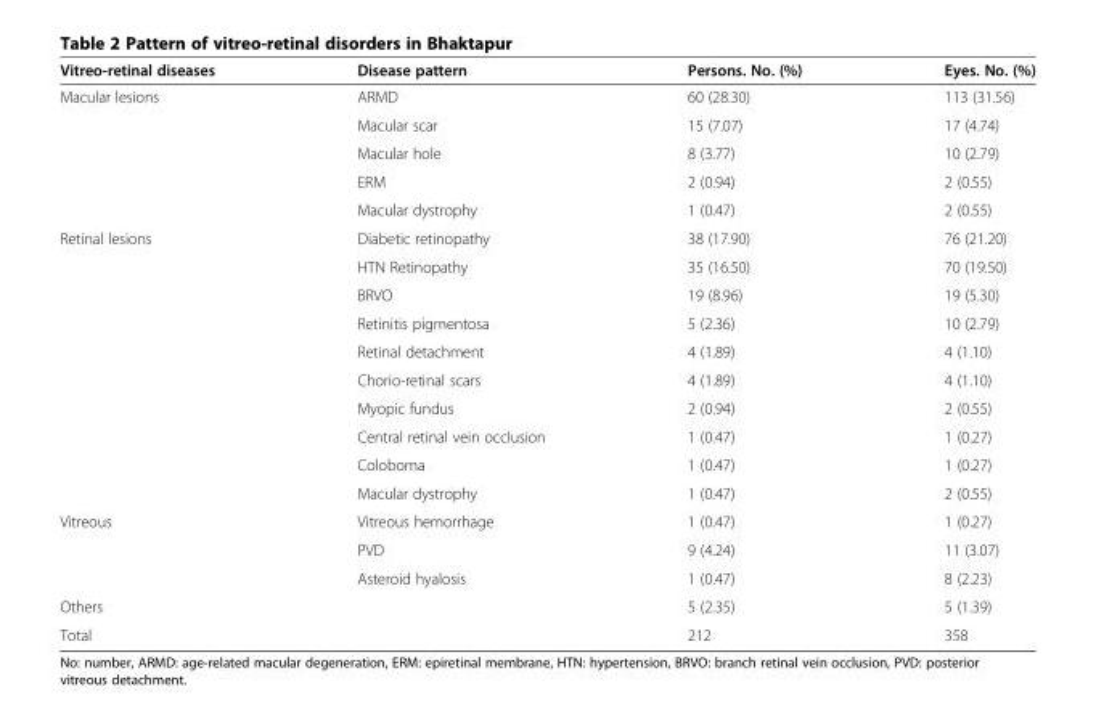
<table><thead><tr><td>Vitreo-retinal diseases</td><td>Disease pattern</td><td>Persons. No. (%)</td><td>Eyes. No. (%)</td></tr></thead><tbody><tr><td rowspan="5">Macular lesions</td><td>ARMD</td><td>60 (28.30)</td><td>113 (31.56)</td></tr><tr><td>Macular scar</td><td>15 (7.07)</td><td>17 (4.74)</td></tr><tr><td>Macular hole</td><td>8 (3.77)</td><td>10 (2.79)</td></tr><tr><td>ERM</td><td>2 (0.94)</td><td>2 (0.55)</td></tr><tr><td>Macular dystrophy</td><td>1 (0.47)</td><td>2 (0.55)</td></tr><tr><td rowspan="10">Retinal lesions</td><td>Diabetic retinopathy</td><td>38 (17.90)</td><td>76 (21.20)</td></tr><tr><td>HTN Retinopathy</td><td>35 (16.50)</td><td>70 (19.50)</td></tr><tr><td>BRVO</td><td>19 (8.96)</td><td>19 (5.30)</td></tr><tr><td>Retinitis pigmentosa</td><td>5 (2.36)</td><td>10 (2.79)</td></tr><tr><td>Retinal detachment</td><td>4 (1.89)</td><td>4 (1.10)</td></tr><tr><td>Chorio-retinal scars</td><td>4 (1.89)</td><td>4 (1.10)</td></tr><tr><td>Myopic fundus</td><td>2 (0.94)</td><td>2 (0.55)</td></tr><tr><td>Central retinal vein occlusion</td><td>1 (0.47)</td><td>1 (0.27)</td></tr><tr><td>Coloboma</td><td>1 (0.47)</td><td>1 (0.27)</td></tr><tr><td>Macular dystrophy</td><td>1 (0.47)</td><td>2 (0.55)</td></tr><tr><td rowspan="3">Vitreous</td><td>Vitreous hemorrhage</td><td>1 (0.47)</td><td>1 (0.27)</td></tr><tr><td>PVD</td><td>9 (4.24)</td><td>11 (3.07)</td></tr><tr><td>Asteroid hyalosis</td><td>1 (0.47)</td><td>8 (2.23)</td></tr><tr><td>Others</td><td></td><td>5 (2.35)</td><td>5 (1.39)</td></tr><tr><td>Total</td><td></td><td>212</td><td>358</td></tr></tbody></table>